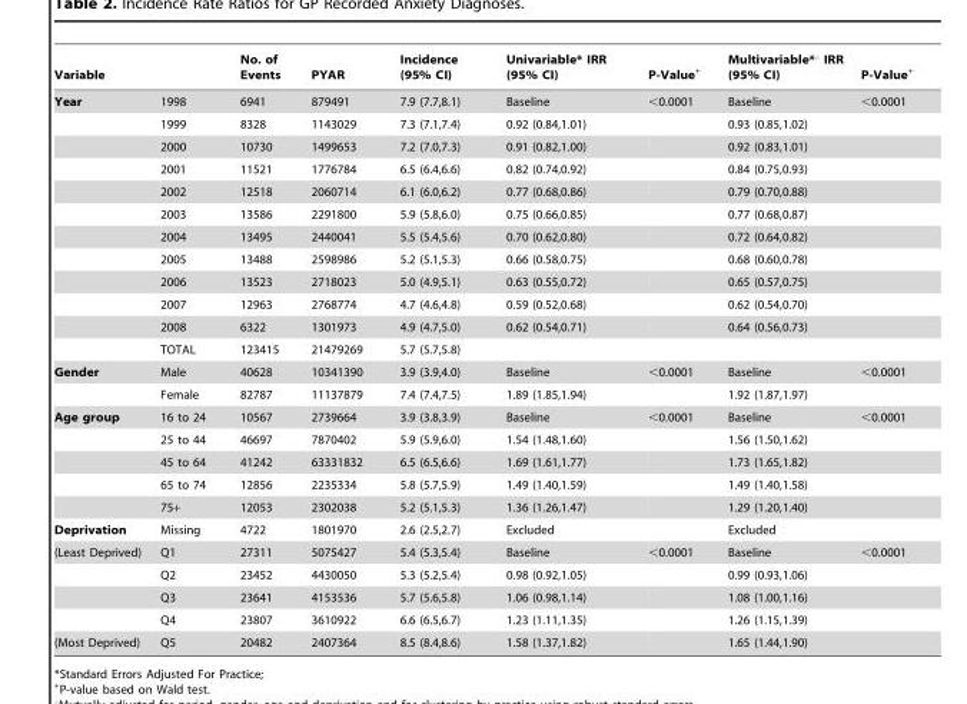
<table><thead><tr><td>Variable</td><td></td><td>No. of Events</td><td>PYAR</td><td>Incidence (95% CI)</td><td>Univariable* IRR (95% CI)</td><td>P-Value+</td><td>Multivariable*‘ IRR (95% CI)</td><td>P-Value+</td></tr></thead><tbody><tr><td rowspan="12">Year</td><td>1998</td><td>6941</td><td>879491</td><td>7.9 (7.7,8.1)</td><td>Baseline</td><td>&lt;0.0001</td><td>Baseline</td><td>&lt;0.0001</td></tr><tr><td>1999</td><td>8328</td><td>1143029</td><td>7.3 (7.1,7.4)</td><td>0.92 (0.84,1.01)</td><td></td><td>0.93 (0.85,1.02)</td><td></td></tr><tr><td>2000</td><td>10730</td><td>1499653</td><td>7.2 (7.0,7.3)</td><td>0.91 (0.82,1.00)</td><td></td><td>0.92 (0.83,1.01)</td><td></td></tr><tr><td>2001</td><td>11521</td><td>1776784</td><td>6.5 (6.4,6.6)</td><td>0.82 (0.74,0.92)</td><td></td><td>0.84 (0.75,0.93)</td><td></td></tr><tr><td>2002</td><td>12518</td><td>2060714</td><td>6.1 (6.0,6.2)</td><td>0.77 (0.68,0.86)</td><td></td><td>0.79 (0.70,0.88)</td><td></td></tr><tr><td>2003</td><td>13586</td><td>2291800</td><td>5.9 (5.8,6.0)</td><td>0.75 (0.66,0.85)</td><td></td><td>0.77 (0.68,0.87)</td><td></td></tr><tr><td>2004</td><td>13495</td><td>2440041</td><td>5.5 (5.4,5.6)</td><td>0.70 (0.62,0.80)</td><td></td><td>0.72 (0.64,0.82)</td><td></td></tr><tr><td>2005</td><td>13488</td><td>2598986</td><td>5.2 (5.1,5.3)</td><td>0.66 (0.58,0.75)</td><td></td><td>0.68 (0.60,0.78)</td><td></td></tr><tr><td>2006</td><td>13523</td><td>2718023</td><td>5.0 (4.9,5.1)</td><td>0.63 (0.55,0.72)</td><td></td><td>0.65 (0.57,0.75)</td><td></td></tr><tr><td>2007</td><td>12963</td><td>2768774</td><td>4.7 (4.6,4.8)</td><td>0.59 (0.52,0.68)</td><td></td><td>0.62 (0.54,0.70)</td><td></td></tr><tr><td>2008</td><td>6322</td><td>1301973</td><td>4.9 (4.7,5.0)</td><td>0.62 (0.54,0.71)</td><td></td><td>0.64 (0.56,0.73)</td><td></td></tr><tr><td>TOTAL</td><td>123415</td><td>21479269</td><td>5.7 (5.7,5.8)</td><td></td><td></td><td></td><td></td></tr><tr><td rowspan="2">Gender</td><td>Male</td><td>40628</td><td>10341390</td><td>3.9 (3.9,4.0)</td><td>Baseline</td><td>&lt;0.0001</td><td>Baseline</td><td>&lt;0.0001</td></tr><tr><td>Female</td><td>82787</td><td>11137879</td><td>7.4 (7.4,7.5)</td><td>1.89 (1.85,1.94)</td><td></td><td>1.92 (1.87,1.97)</td><td></td></tr><tr><td rowspan="5">Age group</td><td>16 to 24</td><td>10567</td><td>2739664</td><td>3.9 (3.8,3.9)</td><td>Baseline</td><td>&lt;0.0001</td><td>Baseline</td><td>&lt;0.0001</td></tr><tr><td>25 to 44</td><td>46697</td><td>7870402</td><td>5.9 (5.9,6.0)</td><td>1.54 (1.48,1.60)</td><td></td><td>1.56 (1.50,1.62)</td><td></td></tr><tr><td>45 to 64</td><td>41242</td><td>63331832</td><td>6.5 (6.5,6.6)</td><td>1.69 (1.61,1.77)</td><td></td><td>1.73 (1.65,1.82)</td><td></td></tr><tr><td>65 to 74</td><td>12856</td><td>2235334</td><td>5.8 (5.7,5.9)</td><td>1.49 (1.40,1.59)</td><td></td><td>1.49 (1.40,1.58)</td><td></td></tr><tr><td>75+</td><td>12053</td><td>2302038</td><td>5.2 (5.1,5.3)</td><td>1.36 (1.26,1.47)</td><td></td><td>1.29 (1.20,1.40)</td><td></td></tr><tr><td>Deprivation</td><td>Missing</td><td>4722</td><td>1801970</td><td>2.6 (2.5,2.7)</td><td>Excluded</td><td></td><td>Excluded</td><td></td></tr><tr><td rowspan="4">(Least Deprived)</td><td>Q1</td><td>27311</td><td>5075427</td><td>5.4 (5.3,5.4)</td><td>Baseline</td><td>&lt;0.0001</td><td>Baseline</td><td>&lt;0.0001</td></tr><tr><td>Q2</td><td>23452</td><td>4430050</td><td>5.3 (5.2,5.4)</td><td>0.98 (0.92,1.05)</td><td></td><td>0.99 (0.93,1.06)</td><td></td></tr><tr><td>Q3</td><td>23641</td><td>4153536</td><td>5.7 (5.6,5.8)</td><td>1.06 (0.98,1.14)</td><td></td><td>1.08 (1.00,1.16)</td><td></td></tr><tr><td>Q4</td><td>23807</td><td>3610922</td><td>6.6 (6.5,6.7)</td><td>1.23 (1.11,1.35)</td><td></td><td>1.26 (1.15,1.39)</td><td></td></tr><tr><td>(Most Deprived)</td><td>Q5</td><td>20482</td><td>2407364</td><td>8.5 (8.4,8.6)</td><td>1.58 (1.37,1.82)</td><td></td><td>1.65 (1.44,1.90)</td><td></td></tr></tbody></table>